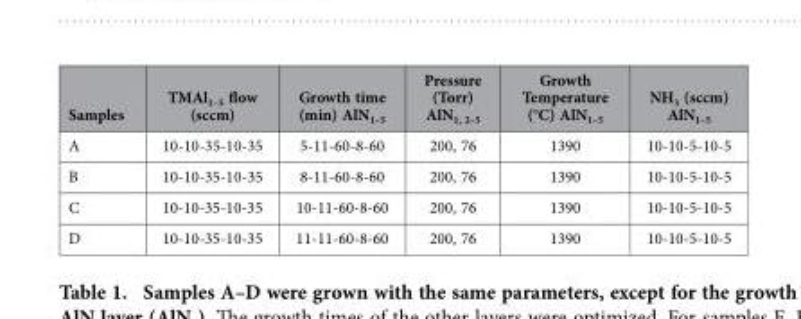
<table><thead><tr><td>Samples</td><td>TMAl<sub>1–5</sub> flow (sccm)</td><td>Growth time (min) AlN<sub>1–5</sub></td><td>Pressure (Torr) AlN<sub>1, 2–5</sub></td><td>Growth Temperature (°C) AlN<sub>1–5</sub></td><td>NH<sub>3</sub> (sccm) AlN<sub>1–5</sub></td></tr></thead><tbody><tr><td>A</td><td>10-10-35-10-35</td><td>5-11-60-8-60</td><td>200, 76</td><td>1390</td><td>10-10-5-10-5</td></tr><tr><td>B</td><td>10-10-35-10-35</td><td>8-11-60-8-60</td><td>200, 76</td><td>1390</td><td>10-10-5-10-5</td></tr><tr><td>C</td><td>10-10-35-10-35</td><td>10-11-60-8-60</td><td>200, 76</td><td>1390</td><td>10-10-5-10-5</td></tr><tr><td>D</td><td>10-10-35-10-35</td><td>11-11-60-8-60</td><td>200, 76</td><td>1390</td><td>10-10-5-10-5</td></tr></tbody></table>